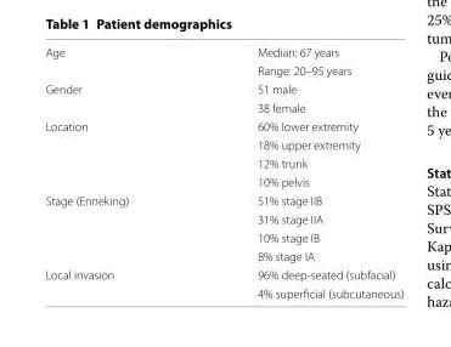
<table><tbody><tr><td rowspan="2">Age</td><td>Median: 67 years</td></tr><tr><td>Range: 20–95 years</td></tr><tr><td rowspan="2">Gender</td><td>51 male</td></tr><tr><td>38 female</td></tr><tr><td rowspan="4">Location</td><td>60% lower extremity</td></tr><tr><td>18% upper extremity</td></tr><tr><td>12% trunk</td></tr><tr><td>10% pelvis</td></tr><tr><td rowspan="4">Stage (Enneking)</td><td>51% stage IIB</td></tr><tr><td>31% stage IIA</td></tr><tr><td>10% stage IB</td></tr><tr><td>8% stage IA</td></tr><tr><td rowspan="2">Local invasion</td><td>96% deep-seated (subfacial)</td></tr><tr><td>4% superficial (subcutaneous)</td></tr></tbody></table>